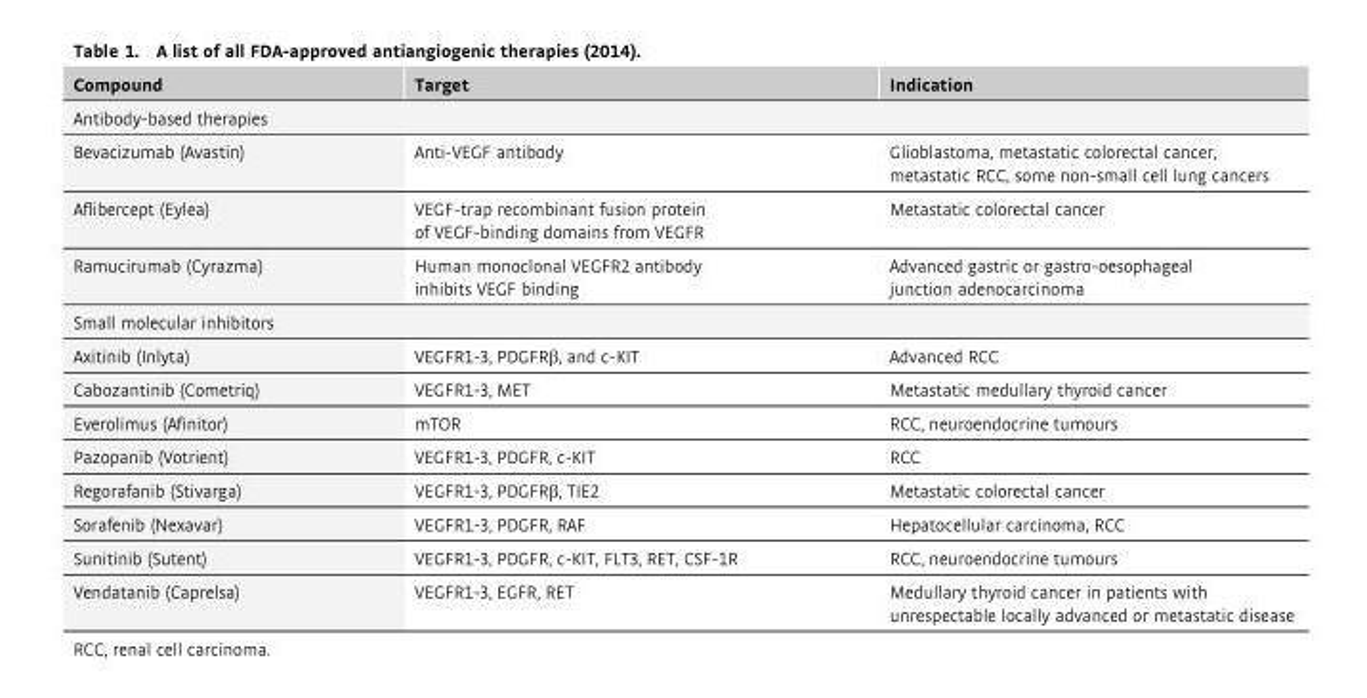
<table><thead><tr><td>Compound</td><td>Target</td><td>Indication</td></tr></thead><tbody><tr><td colspan="3">Antibody-based therapies</td></tr><tr><td>Bevacizumab (Avastin)</td><td>Anti-VEGF antibody</td><td>Glioblastoma, metastatic colorectal cancer, metastatic RCC, some non-small cell lung cancers</td></tr><tr><td>Aflibercept (Eylea)</td><td>VEGF-trap recombinant fusion protein of VEGF-binding domains from VEGFR</td><td>Metastatic colorectal cancer</td></tr><tr><td>Ramucirumab (Cyrazma)</td><td>Human monoclonal VEGFR2 antibody inhibits VEGF binding</td><td>Advanced gastric or gastro-oesophageal junction adenocarcinoma</td></tr><tr><td colspan="3">Small molecular inhibitors</td></tr><tr><td>Axitinib (Inlyta)</td><td>VEGFR1-3, PDGFRβ, and c-KIT</td><td>Advanced RCC</td></tr><tr><td>Cabozantinib (Cometriq)</td><td>VEGFR1-3, MET</td><td>Metastatic medullary thyroid cancer</td></tr><tr><td>Everolimus (Afinitor)</td><td>mTOR</td><td>RCC, neuroendocrine tumours</td></tr><tr><td>Pazopanib (Votrient)</td><td>VEGFR1-3, PDGFR, c-KIT</td><td>RCC</td></tr><tr><td>Regorafanib (Stivarga)</td><td>VEGFR1-3, PDGFRβ, TIE2</td><td>Metastatic colorectal cancer</td></tr><tr><td>Sorafenib (Nexavar)</td><td>VEGFR1-3, PDGFR, RAF</td><td>Hepatocellular carcinoma, RCC</td></tr><tr><td>Sunitinib (Sutent)</td><td>VEGFR1-3, PDGFR, c-KIT, FLT3, RET, CSF-1R</td><td>RCC, neuroendocrine tumours</td></tr><tr><td>Vendatanib (Caprelsa)</td><td>VEGFR1-3, EGFR, RET</td><td>Medullary thyroid cancer in patients with unrespectable locally advanced or metastatic disease</td></tr></tbody></table>